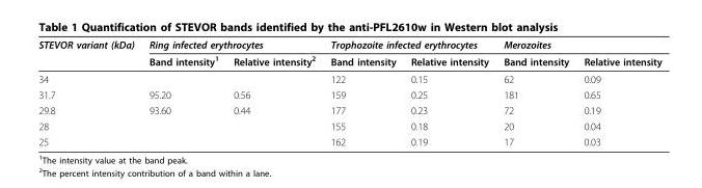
<table><thead><tr><td rowspan="2">STEVOR variant (kDa)</td><td colspan="2">Ring infected erythrocytes</td><td colspan="2">Trophozoite infected erythrocytes</td><td colspan="2">Merozoites</td></tr><tr><td>Band intensity<sup>1</sup></td><td>Relative intensity<sup>2</sup></td><td>Band intensity</td><td>Relative intensity</td><td>Band intensity</td><td>Relative intensity</td></tr></thead><tbody><tr><td>34</td><td></td><td></td><td>122</td><td>0.15</td><td>62</td><td>0.09</td></tr><tr><td>31.7</td><td>95.20</td><td>0.56</td><td>159</td><td>0.25</td><td>181</td><td>0.65</td></tr><tr><td>29.8</td><td>93.60</td><td>0.44</td><td>177</td><td>0.23</td><td>72</td><td>0.19</td></tr><tr><td>28</td><td></td><td></td><td>155</td><td>0.18</td><td>20</td><td>0.04</td></tr><tr><td>25</td><td></td><td></td><td>162</td><td>0.19</td><td>17</td><td>0.03</td></tr></tbody></table>